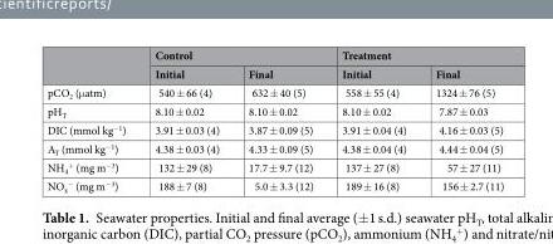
<table><thead><tr><td rowspan="2"></td><td colspan="2">Control</td><td colspan="2">Treatment</td></tr><tr><td>Initial</td><td>Final</td><td>Initial</td><td>Final</td></tr></thead><tbody><tr><td>pCO<sub>2</sub> (μatm)</td><td>540 ± 66 (4)</td><td>632 ± 40 (5)</td><td>558 ± 55 (4)</td><td>1324 ± 76 (5)</td></tr><tr><td>pH<sub>T</sub></td><td>8.10 ± 0.02</td><td>8.10 ± 0.02</td><td>8.10 ± 0.02</td><td>7.87 ± 0.03</td></tr><tr><td>DIC (mmol kg<sup>−1</sup>)</td><td>3.91 ± 0.03 (4)</td><td>3.87 ± 0.09 (5)</td><td>3.91 ± 0.04 (4)</td><td>4.16 ± 0.03 (5)</td></tr><tr><td>A<sub>T</sub> (mmol kg<sup>−1</sup>)</td><td>4.38 ± 0.03 (4)</td><td>4.33 ± 0.09 (5)</td><td>4.38 ± 0.04 (4)</td><td>4.44 ± 0.04 (5)</td></tr><tr><td>NH<sub>4</sub> <sup>+</sup> (mg m<sup>−3</sup>)</td><td>132 ± 29 (8)</td><td>17.7 ± 9.7 (12)</td><td>137 ± 27 (8)</td><td>57 ± 27 (11)</td></tr><tr><td>NO<sub>x</sub> <sup>−</sup> (mg m<sup>−3</sup>)</td><td>188 ± 7 (8)</td><td>5.0 ± 3.3 (12)</td><td>189 ± 16 (8)</td><td>156 ± 2.7 (11)</td></tr></tbody></table>